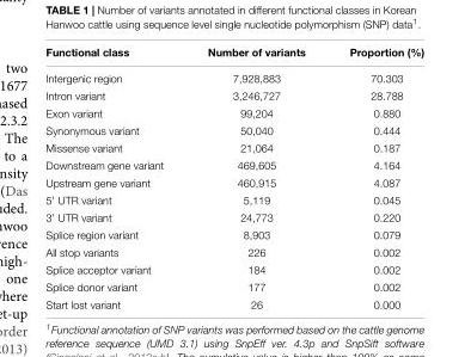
<table><thead><tr><td>Functional class</td><td>Number of variants</td><td>Proportion (%)</td></tr></thead><tbody><tr><td>Intergenic region</td><td>7,928,883</td><td>70.303</td></tr><tr><td>Intron variant</td><td>3,246,727</td><td>28.788</td></tr><tr><td>Exon variant</td><td>99,204</td><td>0.880</td></tr><tr><td>Synonymous variant</td><td>50,040</td><td>0.444</td></tr><tr><td>Missense variant</td><td>21,064</td><td>0.187</td></tr><tr><td>Downstream gene variant</td><td>469,605</td><td>4.164</td></tr><tr><td>Upstream gene variant</td><td>460,915</td><td>4.087</td></tr><tr><td>5′ UTR variant</td><td>5,119</td><td>0.045</td></tr><tr><td>3′ UTR variant</td><td>24,773</td><td>0.220</td></tr><tr><td>Splice region variant</td><td>8,903</td><td>0.079</td></tr><tr><td>All stop variants</td><td>226</td><td>0.002</td></tr><tr><td>Splice acceptor variant</td><td>184</td><td>0.002</td></tr><tr><td>Splice donor variant</td><td>177</td><td>0.002</td></tr><tr><td>Start lost variant</td><td>26</td><td>0.000</td></tr></tbody></table>